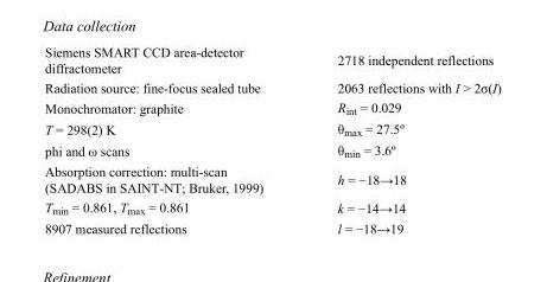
<table><tbody><tr><td>Siemens SMART CCD area-detector diffractometer</td><td>2718 independent reflections</td></tr><tr><td>Radiation source: fine-focus sealed tube</td><td>2063 reflections with I &gt; 2σ(I)</td></tr><tr><td>Monochromator: graphite</td><td>R<sub>int</sub> = 0.029</td></tr><tr><td>T = 298(2) K</td><td>θ<sub>max</sub> = 27.5º</td></tr><tr><td>phi and ω scans</td><td>θ<sub>min</sub> = 3.6º</td></tr><tr><td>Absorption correction: multi-scan (SADABS in SAINT-NT; Bruker, 1999)</td><td>h = −18→18</td></tr><tr><td>T<sub>min</sub> = 0.861, T<sub>max</sub> = 0.861</td><td>k = −14→14</td></tr><tr><td>8907 measured reflections</td><td>l = −18→19</td></tr></tbody></table>